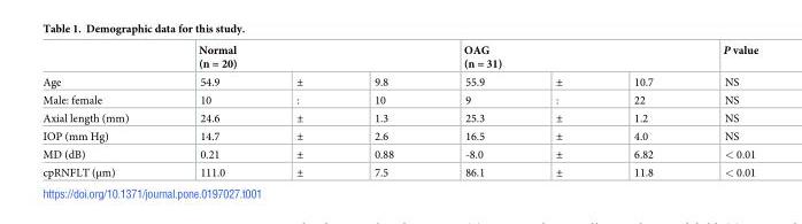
<table><thead><tr><td rowspan="2">Age</td><td colspan="3">Normal (n = 20)</td><td colspan="3">OAG (n = 31)</td><td rowspan="2">P value NS</td></tr><tr><td>54.9</td><td>±</td><td>9.8</td><td>55.9</td><td>±</td><td>10.7</td></tr></thead><tbody><tr><td>Male: female</td><td>10</td><td>:</td><td>10</td><td>9</td><td>:</td><td>22</td><td>NS</td></tr><tr><td>Axial length (mm)</td><td>24.6</td><td>±</td><td>1.3</td><td>25.3</td><td>±</td><td>1.2</td><td>NS</td></tr><tr><td>IOP (mm Hg)</td><td>14.7</td><td>±</td><td>2.6</td><td>16.5</td><td>±</td><td>4.0</td><td>NS</td></tr><tr><td>MD (dB)</td><td>0.21</td><td>±</td><td>0.88</td><td>-8.0</td><td>±</td><td>6.82</td><td>&lt; 0.01</td></tr><tr><td>cpRNFLT (μm)</td><td>111.0</td><td>±</td><td>7.5</td><td>86.1</td><td>±</td><td>11.8</td><td>&lt; 0.01</td></tr></tbody></table>